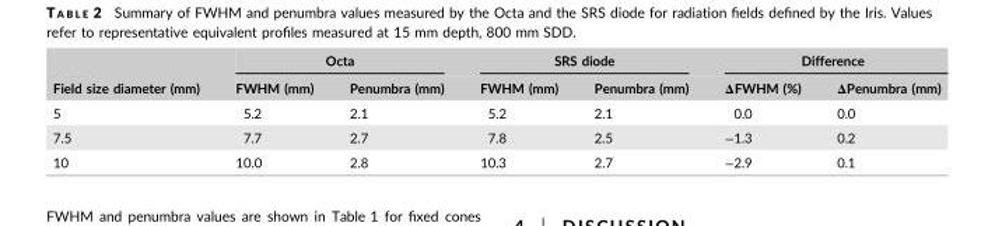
<table><thead><tr><td rowspan="2">Field size diameter (mm)</td><td colspan="2">Octa</td><td colspan="2">SRS diode</td><td colspan="2">Difference</td></tr><tr><td>FWHM (mm)</td><td>Penumbra (mm)</td><td>FWHM (mm)</td><td>Penumbra (mm)</td><td>ΔFWHM (%)</td><td>ΔPenumbra (mm)</td></tr></thead><tbody><tr><td>5</td><td>5.2</td><td>2.1</td><td>5.2</td><td>2.1</td><td>0.0</td><td>0.0</td></tr><tr><td>7.5</td><td>7.7</td><td>2.7</td><td>7.8</td><td>2.5</td><td>−1.3</td><td>0.2</td></tr><tr><td>10</td><td>10.0</td><td>2.8</td><td>10.3</td><td>2.7</td><td>−2.9</td><td>0.1</td></tr></tbody></table>